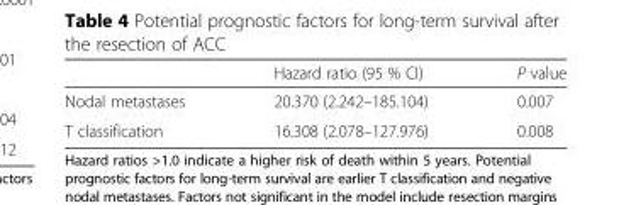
<table><thead><tr><td></td><td>Hazard ratio (95 % CI)</td><td>P value</td></tr></thead><tbody><tr><td>Nodal metastases</td><td>20.370 (2.242–185.104)</td><td>0.007</td></tr><tr><td>T classification</td><td>16.308 (2.078–127.976)</td><td>0.008</td></tr></tbody></table>